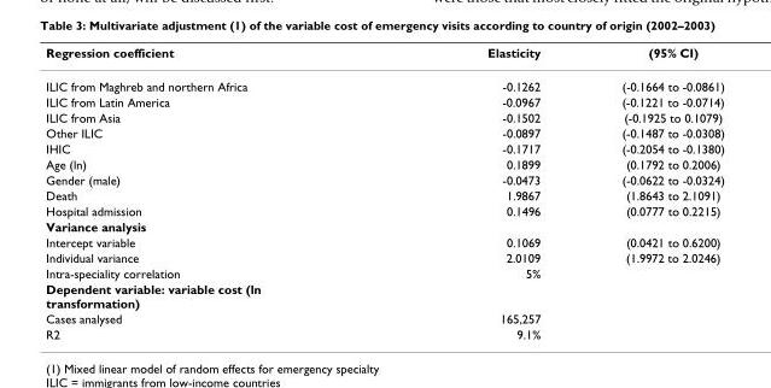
<table><thead><tr><td>Regression coefficient</td><td>Elasticity</td><td>(95% CI)</td></tr></thead><tbody><tr><td>ILIC from Maghreb and northern Africa</td><td>-0.1262</td><td>(-0.1664 to -0.0861)</td></tr><tr><td>ILIC from Latin America</td><td>-0.0967</td><td>(-0.1221 to -0.0714)</td></tr><tr><td>ILIC from Asia</td><td>-0.1502</td><td>(-0.1925 to 0.1079)</td></tr><tr><td>Other ILIC</td><td>-0.0897</td><td>(-0.1487 to -0.0308)</td></tr><tr><td>IHIC</td><td>-0.1717</td><td>(-0.2054 to -0.1380)</td></tr><tr><td>Age (ln)</td><td>0.1899</td><td>(0.1792 to 0.2006)</td></tr><tr><td>Gender (male)</td><td>-0.0473</td><td>(-0.0622 to -0.0324)</td></tr><tr><td>Death</td><td>1.9867</td><td>(1.8643 to 2.1091)</td></tr><tr><td>Hospital admission</td><td>0.1496</td><td>(0.0777 to 0.2215)</td></tr><tr><td colspan="3">Variance analysis</td></tr><tr><td>Intercept variable</td><td>0.1069</td><td>(0.0421 to 0.6200)</td></tr><tr><td>Individual variance</td><td>2.0109</td><td>(1.9972 to 2.0246)</td></tr><tr><td>Intra-speciality correlation</td><td>5%</td><td></td></tr><tr><td colspan="3">Dependent variable: variable cost (ln transformation)</td></tr><tr><td>Cases analysed</td><td>165,257</td><td></td></tr><tr><td>R2</td><td>9.1%</td><td></td></tr></tbody></table>